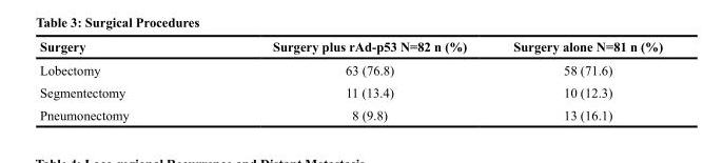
<table><thead><tr><td>Surgery</td><td>Surgery plus rAd-p53 N=82 n (%)</td><td>Surgery alone N=81 n (%)</td></tr></thead><tbody><tr><td>Lobectomy</td><td>63 (76.8)</td><td>58 (71.6)</td></tr><tr><td>Segmentectomy</td><td>11 (13.4)</td><td>10 (12.3)</td></tr><tr><td>Pneumonectomy</td><td>8 (9.8)</td><td>13 (16.1)</td></tr></tbody></table>